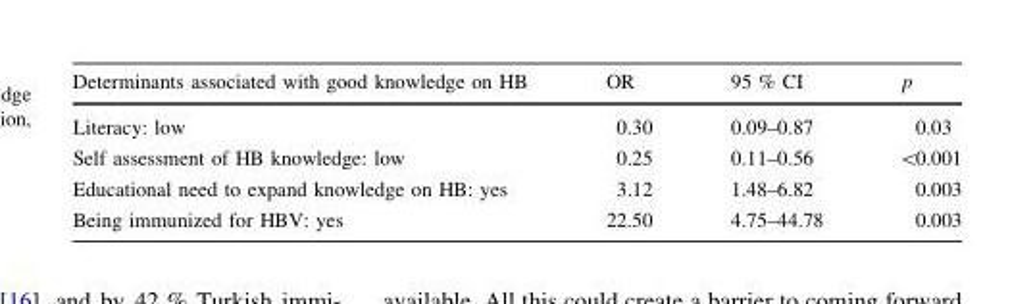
<table><thead><tr><td>Determinants associated with good knowledge on HB</td><td>OR</td><td>95 % CI</td><td>p</td></tr></thead><tbody><tr><td>Literacy: low</td><td>0.30</td><td>0.09–0.87</td><td>0.03</td></tr><tr><td>Self assessment of HB knowledge: low</td><td>0.25</td><td>0.11–0.56</td><td>&lt;0.001</td></tr><tr><td>Educational need to expand knowledge on HB: yes</td><td>3.12</td><td>1.48–6.82</td><td>0.003</td></tr><tr><td>Being immunized for HBV: yes</td><td>22.50</td><td>4.75–44.78</td><td>0.003</td></tr></tbody></table>